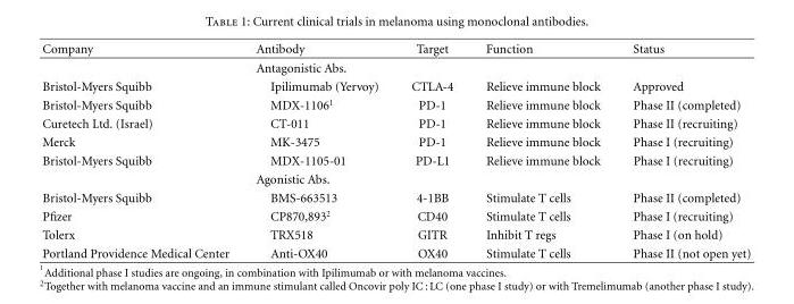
<table><thead><tr><td>Company</td><td>Antibody</td><td>Target</td><td>Function</td><td>Status</td></tr></thead><tbody><tr><td></td><td>Antagonistic Abs.</td><td></td><td></td><td></td></tr><tr><td>Bristol-Myers Squibb</td><td>Ipilimumab (Yervoy)</td><td>CTLA-4</td><td>Relieve immune block</td><td>Approved</td></tr><tr><td>Bristol-Myers Squibb</td><td>MDX-1106<sup>1</sup></td><td>PD-1</td><td>Relieve immune block</td><td>Phase II (completed)</td></tr><tr><td>Curetech Ltd. (Israel)</td><td>CT-011</td><td>PD-1</td><td>Relieve immune block</td><td>Phase II (recruiting)</td></tr><tr><td>Merck</td><td>MK-3475</td><td>PD-1</td><td>Relieve immune block</td><td>Phase I (recruiting)</td></tr><tr><td rowspan="2">Bristol-Myers Squibb</td><td>MDX-1105-01</td><td>PD-L1</td><td>Relieve immune block</td><td>Phase I (recruiting)</td></tr><tr><td>Agonistic Abs.</td><td></td><td></td><td></td></tr><tr><td>Bristol-Myers Squibb</td><td>BMS-663513</td><td>4-1BB</td><td>Stimulate T cells</td><td>Phase II (completed)</td></tr><tr><td>Pfizer</td><td>CP870,893<sup>2</sup></td><td>CD40</td><td>Stimulate T cells</td><td>Phase I (recruiting)</td></tr><tr><td>Tolerx</td><td>TRX518</td><td>GITR</td><td>Inhibit T regs</td><td>Phase I (on hold)</td></tr><tr><td>Portland Providence Medical Center</td><td>Anti-OX40</td><td>OX40</td><td>Stimulate T cells</td><td>Phase II (not open yet)</td></tr></tbody></table>